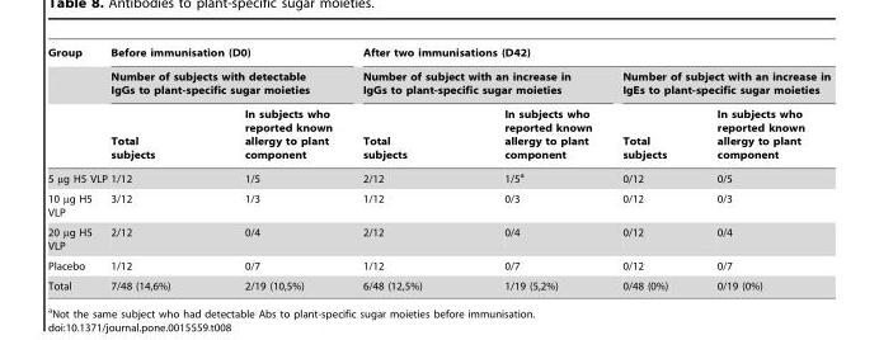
<table><thead><tr><td rowspan="3">Group</td><td rowspan="2" colspan="2">Before immunisation (D0) Number of subjects with detectable IgGs to plant-specific sugar moieties</td><td colspan="4">After two immunisations (D42)</td></tr><tr><td colspan="2">Number of subject with an increase in IgGs to plant-specific sugar moieties</td><td colspan="2">Number of subject with an increase in IgEs to plant-specific sugar moieties</td></tr><tr><td>Total subjects</td><td>In subjects who reported known allergy to plant component</td><td>Total subjects</td><td>In subjects who reported known allergy to plant component</td><td>Total subjects</td><td>In subjects who reported known allergy to plant component</td></tr></thead><tbody><tr><td>5 µg H5 VLP</td><td>1/12</td><td>1/5</td><td>2/12</td><td>1/5<sup>a</sup></td><td>0/12</td><td>0/5</td></tr><tr><td>10 µg H5 VLP</td><td>3/12</td><td>1/3</td><td>1/12</td><td>0/3</td><td>0/12</td><td>0/3</td></tr><tr><td>20 µg H5 VLP</td><td>2/12</td><td>0/4</td><td>2/12</td><td>0/4</td><td>0/12</td><td>0/4</td></tr><tr><td>Placebo</td><td>1/12</td><td>0/7</td><td>1/12</td><td>0/7</td><td>0/12</td><td>0/7</td></tr><tr><td>Total</td><td>7/48 (14,6%)</td><td>2/19 (10,5%)</td><td>6/48 (12,5%)</td><td>1/19 (5,2%)</td><td>0/48 (0%)</td><td>0/19 (0%)</td></tr></tbody></table>